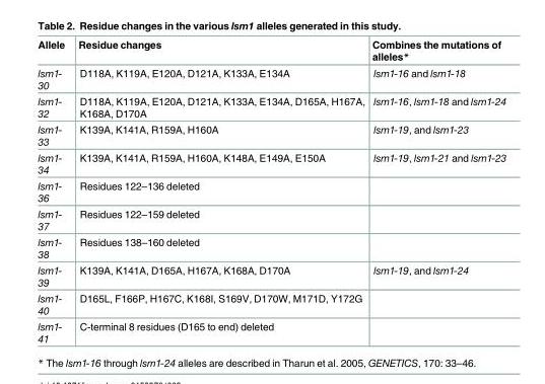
<table><thead><tr><td>Allele</td><td>Residue changes</td><td>Combines the mutations of alleles*</td></tr></thead><tbody><tr><td>lsm1- 30</td><td>D118A, K119A, E120A, D121A, K133A, E134A</td><td>lsm1-16 and lsm1-18</td></tr><tr><td>lsm1- 32</td><td>D118A, K119A, E120A, D121A, K133A, E134A, D165A, H167A, K168A, D170A</td><td>lsm1-16, lsm1-18 and lsm1-24</td></tr><tr><td>lsm1- 33</td><td>K139A, K141A, R159A, H160A</td><td>lsm1-19, and lsm1-23</td></tr><tr><td>lsm1- 34</td><td>K139A, K141A, R159A, H160A, K148A, E149A, E150A</td><td>lsm1-19, lsm1-21 and lsm1-23</td></tr><tr><td>lsm1- 36</td><td>Residues 122–136 deleted</td><td></td></tr><tr><td>lsm1- 37</td><td>Residues 122–159 deleted</td><td></td></tr><tr><td>lsm1- 38</td><td>Residues 138–160 deleted</td><td></td></tr><tr><td>lsm1- 39</td><td>K139A, K141A, D165A, H167A, K168A, D170A</td><td>lsm1-19, and lsm1-24</td></tr><tr><td>lsm1- 40</td><td>D165L, F166P, H167C, K168I, S169V, D170W, M171D, Y172G</td><td></td></tr><tr><td>lsm1- 41</td><td>C-terminal 8 residues (D165 to end) deleted</td><td></td></tr></tbody></table>